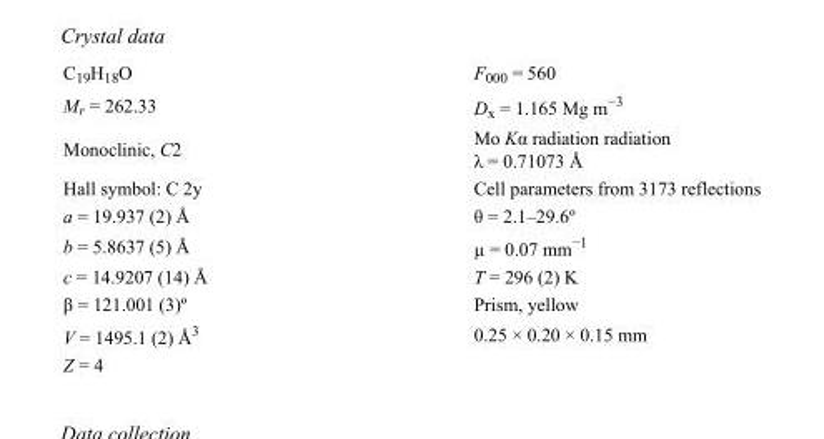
<table><tbody><tr><td>C<sub>19</sub>H<sub>18</sub>O</td><td>F<sub>000</sub> = 560</td></tr><tr><td>M<sub>r</sub> = 262.33</td><td>D<sub>x</sub> = 1.165 Mg m<sup>−3</sup></td></tr><tr><td>Monoclinic, C2</td><td>Mo Kα radiation radiation λ = 0.71073 Å</td></tr><tr><td>Hall symbol: C 2y</td><td>Cell parameters from 3173 reflections</td></tr><tr><td>a = 19.937 (2) Å</td><td>θ = 2.1–29.6º</td></tr><tr><td>b = 5.8637 (5) Å</td><td>µ = 0.07 mm<sup>−1</sup></td></tr><tr><td>c = 14.9207 (14) Å</td><td>T = 296 (2) K</td></tr><tr><td>β = 121.001 (3)º</td><td>Prism, yellow</td></tr><tr><td>V = 1495.1 (2) Å<sup>3</sup></td><td>0.25 × 0.20 × 0.15 mm</td></tr><tr><td>Z = 4</td><td></td></tr></tbody></table>